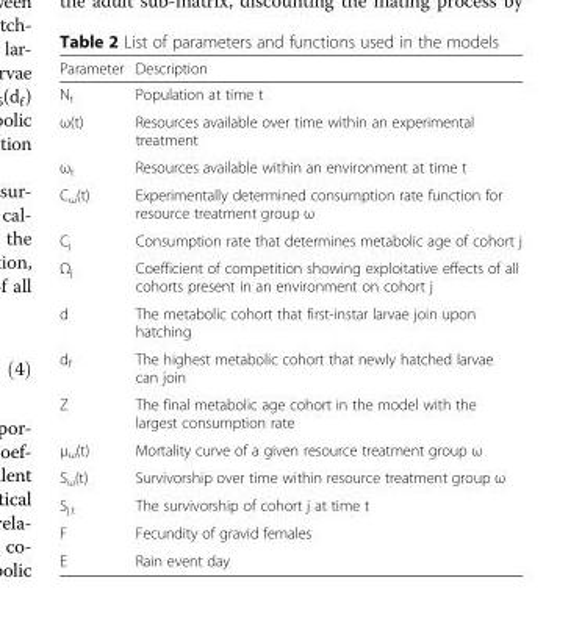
<table><thead><tr><td>Parameter</td><td>Description</td></tr></thead><tbody><tr><td>N<sub>t</sub></td><td>Population at time t</td></tr><tr><td>ω(t)</td><td>Resources available over time within an experimental treatment</td></tr><tr><td>ω<sub>t</sub></td><td>Resources available within an environment at time t</td></tr><tr><td>C<sub>ω</sub>(t)</td><td>Experimentally determined consumption rate function for resource treatment group ω</td></tr><tr><td>C<sub>j</sub></td><td>Consumption rate that determines metabolic age of cohort j</td></tr><tr><td>Ω<sub>j</sub></td><td>Coefficient of competition showing exploitative effects of all cohorts present in an environment on cohort j</td></tr><tr><td>d</td><td>The metabolic cohort that first-instar larvae join upon hatching</td></tr><tr><td>d<sub>f</sub></td><td>The highest metabolic cohort that newly hatched larvae can join</td></tr><tr><td>Z</td><td>The final metabolic age cohort in the model with the largest consumption rate</td></tr><tr><td>μ<sub>ω</sub>(t)</td><td>Mortality curve of a given resource treatment group ω</td></tr><tr><td>S<sub>ω</sub>(t)</td><td>Survivorship over time within resource treatment group ω</td></tr><tr><td>S<sub>j.t</sub></td><td>The survivorship of cohort j at time t</td></tr><tr><td>F</td><td>Fecundity of gravid females</td></tr><tr><td>E</td><td>Rain event day</td></tr></tbody></table>